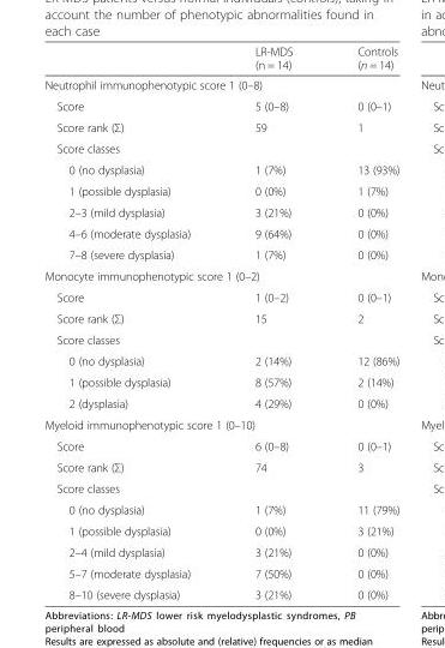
<table><thead><tr><td></td><td>LR-MDS (n = 14)</td><td>Controls (n = 14)</td></tr></thead><tbody><tr><td colspan="3">Neutrophil immunophenotypic score 1 (0–8)</td></tr><tr><td>Score</td><td>5 (0–8)</td><td>0 (0–1)</td></tr><tr><td>Score rank (Σ)</td><td>59</td><td>1</td></tr><tr><td colspan="3">Score classes</td></tr><tr><td>0 (no dysplasia)</td><td>1 (7%)</td><td>13 (93%)</td></tr><tr><td>1 (possible dysplasia)</td><td>0 (0%)</td><td>1 (7%)</td></tr><tr><td>2–3 (mild dysplasia)</td><td>3 (21%)</td><td>0 (0%)</td></tr><tr><td>4–6 (moderate dysplasia)</td><td>9 (64%)</td><td>0 (0%)</td></tr><tr><td>7–8 (severe dysplasia)</td><td>1 (7%)</td><td>0 (0%)</td></tr><tr><td colspan="3">Monocyte immunophenotypic score 1 (0–2)</td></tr><tr><td>Score</td><td>1 (0–2)</td><td>0 (0–1)</td></tr><tr><td>Score rank (Σ)</td><td>15</td><td>2</td></tr><tr><td colspan="3">Score classes</td></tr><tr><td>0 (no dysplasia)</td><td>2 (14%)</td><td>12 (86%)</td></tr><tr><td>1 (possible dysplasia)</td><td>8 (57%)</td><td>2 (14%)</td></tr><tr><td>2 (dysplasia)</td><td>4 (29%)</td><td>0 (0%)</td></tr><tr><td colspan="3">Myeloid immunophenotypic score 1 (0–10)</td></tr><tr><td>Score</td><td>6 (0–8)</td><td>0 (0–1)</td></tr><tr><td>Score rank (Σ)</td><td>74</td><td>3</td></tr><tr><td colspan="3">Score classes</td></tr><tr><td>0 (no dysplasia)</td><td>1 (7%)</td><td>11 (79%)</td></tr><tr><td>1 (possible dysplasia)</td><td>0 (0%)</td><td>3 (21%)</td></tr><tr><td>2–4 (mild dysplasia)</td><td>3 (21%)</td><td>0 (0%)</td></tr><tr><td>5–7 (moderate dysplasia)</td><td>7 (50%)</td><td>0 (0%)</td></tr><tr><td>8–10 (severe dysplasia)</td><td>3 (21%)</td><td>0 (0%)</td></tr></tbody></table>